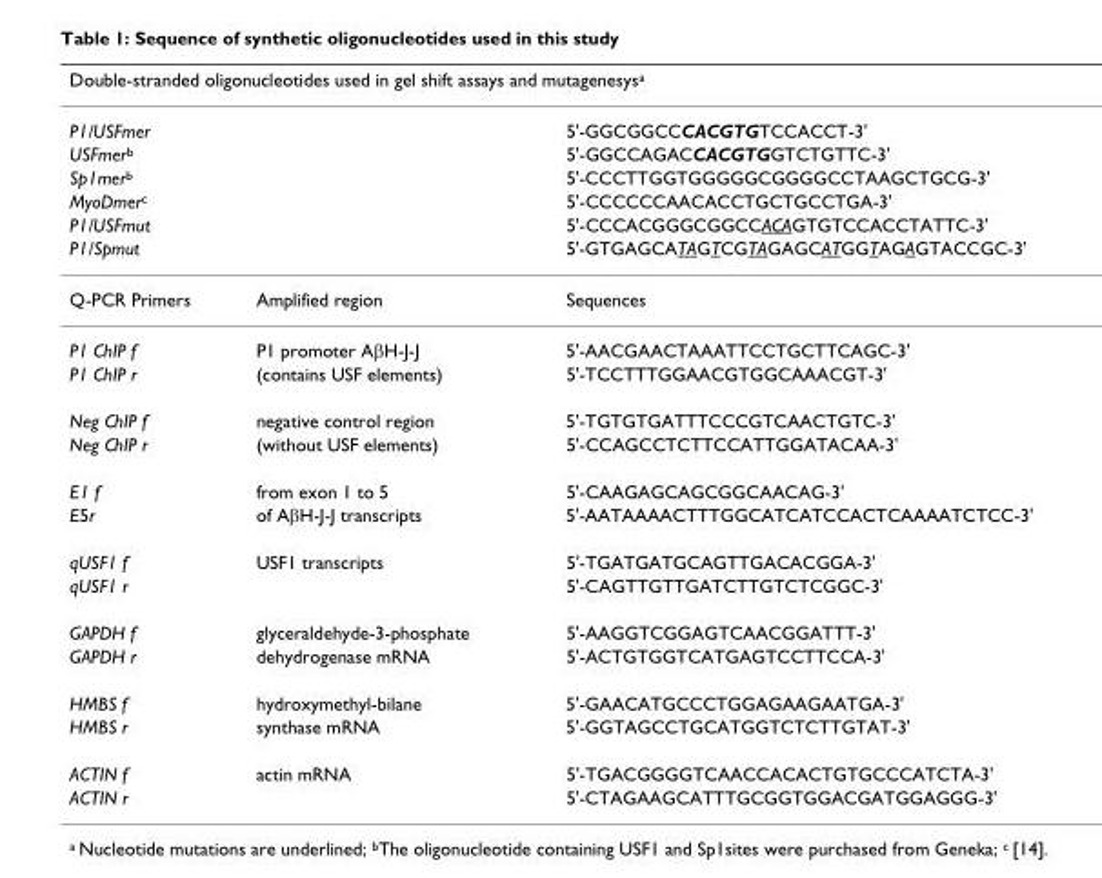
<table><thead><tr><td colspan="3">Double-stranded oligonucleotides used in gel shift assays and mutagenesys<sup>a</sup></td></tr><tr><td>P1/USFmer</td><td></td><td>5&#x27;-GGCGGCCCACGTGTCCACCT-3&#x27;</td></tr></thead><tbody><tr><td>USFmer<sup>b</sup></td><td></td><td>5&#x27;-GGCCAGACCACGTGGTCTGTTC-3&#x27;</td></tr><tr><td>Sp1mer<sup>b</sup></td><td></td><td>5&#x27;-CCCTTGGTGGGGGCGGGGCCTAAGCTGCG-3&#x27;</td></tr><tr><td>MyoDmer<sup>c</sup></td><td></td><td>5&#x27;-CCCCCCAACACCTGCTGCCTGA-3&#x27;</td></tr><tr><td>P1/USFmut</td><td></td><td>5&#x27;-CCCACGGGCGGCCACAGTGTCCACCTATTC-3&#x27;</td></tr><tr><td>P1/Spmut</td><td></td><td>5&#x27;-GTGAGCATAGTCGTAGAGCATGGTAGAGTACCGC-3&#x27;</td></tr><tr><td>Q-PCR Primers</td><td>Amplified region</td><td>Sequences</td></tr><tr><td>P1 ChIP f</td><td>P1 promoter AβH-J-J</td><td>5&#x27;-AACGAACTAAATTCCTGCTTCAGC-3&#x27;</td></tr><tr><td>P1 ChIP r</td><td>(contains USF elements)</td><td>5&#x27;-TCCTTTGGAACGTGGCAAACGT-3&#x27;</td></tr><tr><td>Neg ChIP f</td><td>negative control region</td><td>5&#x27;-TGTGTGATTTCCCGTCAACTGTC-3&#x27;</td></tr><tr><td>Neg ChIP r</td><td>(without USF elements)</td><td>5&#x27;-CCAGCCTCTTCCATTGGATACAA-3&#x27;</td></tr><tr><td>E1 f</td><td>from exon 1 to 5</td><td>5&#x27;-CAAGAGCAGCGGCAACAG-3&#x27;</td></tr><tr><td>E5r</td><td>of AβH-J-J transcripts</td><td>5&#x27;-AATAAAACTTTGGCATCATCCACTCAAAATCTCC-3&#x27;</td></tr><tr><td>qUSF1 f</td><td>USF1 transcripts</td><td>5&#x27;-TGATGATGCAGTTGACACGGA-3&#x27;</td></tr><tr><td>qUSF1 r</td><td></td><td>5&#x27;-CAGTTGTTGATCTTGTCTCGGC-3&#x27;</td></tr><tr><td>GAPDH f</td><td>glyceraldehyde-3-phosphate</td><td>5&#x27;-AAGGTCGGAGTCAACGGATTT-3&#x27;</td></tr><tr><td>GAPDH r</td><td>dehydrogenase mRNA</td><td>5&#x27;-ACTGTGGTCATGAGTCCTTCCA-3&#x27;</td></tr><tr><td>HMBS f</td><td>hydroxymethyl-bilane</td><td>5&#x27;-GAACATGCCCTGGAGAAGAATGA-3&#x27;</td></tr><tr><td>HMBS r</td><td>synthase mRNA</td><td>5&#x27;-GGTAGCCTGCATGGTCTCTTGTAT-3&#x27;</td></tr><tr><td>ACTIN f</td><td>actin mRNA</td><td>5&#x27;-TGACGGGGTCAACCACACTGTGCCCATCTA-3&#x27;</td></tr><tr><td>ACTIN r</td><td></td><td>5&#x27;-CTAGAAGCATTTGCGGTGGACGATGGAGGG-3&#x27;</td></tr></tbody></table>